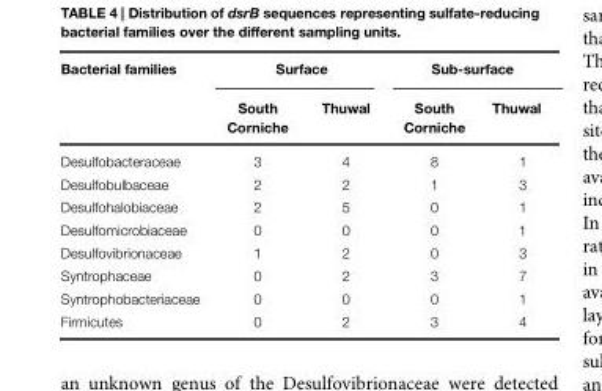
<table><thead><tr><td rowspan="2">Bacterial families</td><td colspan="2">Surface</td><td colspan="2">Sub-surface</td></tr><tr><td>South Corniche</td><td>Thuwal</td><td>South Corniche</td><td>Thuwal</td></tr></thead><tbody><tr><td>Desulfobacteraceae</td><td>3</td><td>4</td><td>8</td><td>1</td></tr><tr><td>Desulfobulbaceae</td><td>2</td><td>2</td><td>1</td><td>3</td></tr><tr><td>Desulfohalobiaceae</td><td>2</td><td>5</td><td>0</td><td>1</td></tr><tr><td>Desulfomicrobiaceae</td><td>0</td><td>0</td><td>0</td><td>1</td></tr><tr><td>Desulfovibrionaceae</td><td>1</td><td>2</td><td>0</td><td>3</td></tr><tr><td>Syntrophaceae</td><td>0</td><td>2</td><td>3</td><td>7</td></tr><tr><td>Syntrophobacteriaceae</td><td>0</td><td>0</td><td>0</td><td>1</td></tr><tr><td>Firmicutes</td><td>0</td><td>2</td><td>3</td><td>4</td></tr></tbody></table>